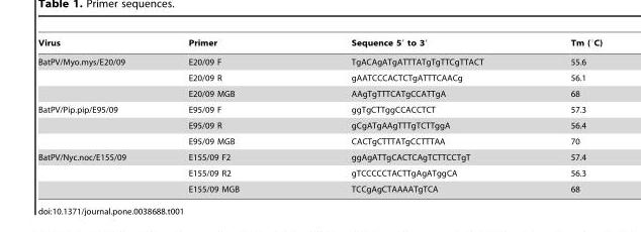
<table><thead><tr><td>Virus</td><td>Primer</td><td>Sequence 5′ to 3′</td><td>Tm (°C)</td></tr></thead><tbody><tr><td rowspan="3">BatPV/Myo.mys/E20/09</td><td>E20/09 F</td><td>TgACAgATgATTTATgTgTTCgTTACT</td><td>55.6</td></tr><tr><td>E20/09 R</td><td>gAATCCCACTCTgATTTCAACg</td><td>56.1</td></tr><tr><td>E20/09 MGB</td><td>AAgTgTTTCATgCCATTgA</td><td>68</td></tr><tr><td rowspan="3">BatPV/Pip.pip/E95/09</td><td>E95/09 F</td><td>ggTgCTTggCCACCTCT</td><td>57.3</td></tr><tr><td>E95/09 R</td><td>gCgATgAAgTTTgTCTTggA</td><td>56.4</td></tr><tr><td>E95/09 MGB</td><td>CACTgCTTTATgCCTTTAA</td><td>70</td></tr><tr><td rowspan="3">BatPV/Nyc.noc/E155/09</td><td>E155/09 F2</td><td>ggAgATTgCACTCAgTCTTCCTgT</td><td>57.4</td></tr><tr><td>E155/09 R2</td><td>gTCCCCCTACTTgAgATggCA</td><td>56.3</td></tr><tr><td>E155/09 MGB</td><td>TCCgAgCTAAAATgTCA</td><td>68</td></tr></tbody></table>